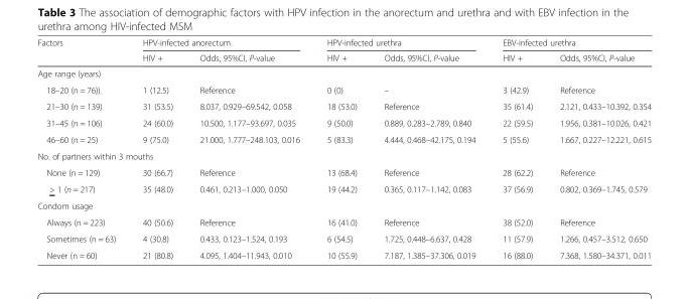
<table><thead><tr><td rowspan="2">Factors</td><td colspan="2">HPV-infected anorectum</td><td colspan="2">HPV-infected urethra</td><td colspan="2">EBV-infected urethra</td></tr><tr><td>HIV +</td><td>Odds, 95%CI, P-value</td><td>HIV +</td><td>Odds, 95%CI, P-value</td><td>HIV +</td><td>Odds, 95%CI, P-value</td></tr></thead><tbody><tr><td colspan="7">Age range (years)</td></tr><tr><td>18–20 (n = 76))</td><td>1 (12.5)</td><td>Reference</td><td>0 (0)</td><td>–</td><td>3 (42.9)</td><td>Reference</td></tr><tr><td>21–30 (n = 139)</td><td>31 (53.5)</td><td>8.037, 0.929–69.542, 0.058</td><td>18 (53.0)</td><td>Reference</td><td>35 (61.4)</td><td>2.121, 0.433–10.392, 0.354</td></tr><tr><td>31–45 (n = 106)</td><td>24 (60.0)</td><td>10.500, 1.177–93.697, 0.035</td><td>9 (50.0)</td><td>0.889, 0.283–2.789, 0.840</td><td>22 (59.5)</td><td>1.956, 0.381–10.026, 0.421</td></tr><tr><td>46–60 (n = 25)</td><td>9 (75.0)</td><td>21.000, 1.777–248.103, 0.016</td><td>5 (83.3)</td><td>4.444, 0.468–42.175, 0.194</td><td>5 (55.6)</td><td>1.667, 0.227–12.221, 0.615</td></tr><tr><td colspan="7">No. of partners within 3 mouths</td></tr><tr><td>None (n = 129)</td><td>30 (66.7)</td><td>Reference</td><td>13 (68.4)</td><td>Reference</td><td>28 (62.2)</td><td>Reference</td></tr><tr><td>&gt; 1 (n = 217)</td><td>35 (48.0)</td><td>0.461, 0.213–1.000, 0.050</td><td>19 (44.2)</td><td>0.365, 0.117–1.142, 0.083</td><td>37 (56.9)</td><td>0.802, 0.369–1.745, 0.579</td></tr><tr><td colspan="7">Condom usage</td></tr><tr><td>Always (n = 223)</td><td>40 (50.6)</td><td>Reference</td><td>16 (41.0)</td><td>Reference</td><td>38 (52.0)</td><td>Reference</td></tr><tr><td>Sometimes (n = 63)</td><td>4 (30.8)</td><td>0.433, 0.123–1.524, 0.193</td><td>6 (54.5)</td><td>1.725, 0.448–6.637, 0.428</td><td>11 (57.9)</td><td>1.266, 0.457–3.512, 0.650</td></tr><tr><td>Never (n = 60)</td><td>21 (80.8)</td><td>4.095, 1.404–11.943, 0.010</td><td>10 (55.9)</td><td>7.187, 1.385–37.306, 0.019</td><td>16 (88.0)</td><td>7.368, 1.580–34.371, 0.011</td></tr></tbody></table>